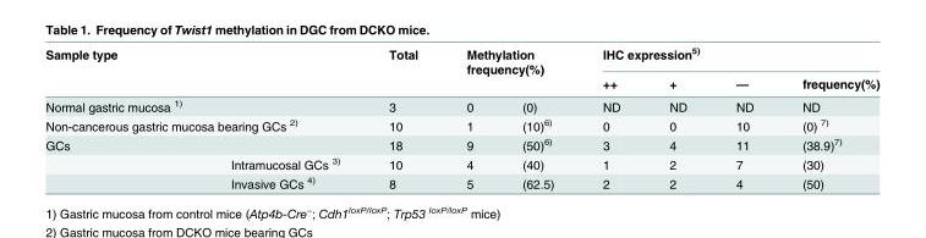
<table><thead><tr><td colspan="2">Sample type</td><td rowspan="2">Total</td><td colspan="2">Methylation frequency(%)</td><td colspan="4">IHC expression<sup>5)</sup></td></tr><tr><td></td><td></td><td></td><td></td><td>++</td><td>+</td><td>—</td><td>frequency(%)</td></tr></thead><tbody><tr><td>Normal gastric mucosa <sup>1)</sup></td><td></td><td>3</td><td>0</td><td>(0)</td><td>ND</td><td>ND</td><td>ND</td><td>ND</td></tr><tr><td colspan="2">Non-cancerous gastric mucosa bearing GCs <sup>2)</sup></td><td>10</td><td>1</td><td>(10)<sup>6)</sup></td><td>0</td><td>0</td><td>10</td><td>(0) <sup>7)</sup></td></tr><tr><td rowspan="3">GCs</td><td></td><td>18</td><td>9</td><td>(50)<sup>6)</sup></td><td>3</td><td>4</td><td>11</td><td>(38.9)<sup>7)</sup></td></tr><tr><td>Intramucosal GCs <sup>3)</sup></td><td>10</td><td>4</td><td>(40)</td><td>1</td><td>2</td><td>7</td><td>(30)</td></tr><tr><td>Invasive GCs <sup>4)</sup></td><td>8</td><td>5</td><td>(62.5)</td><td>2</td><td>2</td><td>4</td><td>(50)</td></tr></tbody></table>